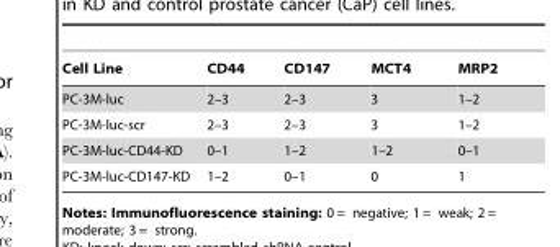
<table><thead><tr><td>Cell Line</td><td>CD44</td><td>CD147</td><td>MCT4</td><td>MRP2</td></tr></thead><tbody><tr><td>PC-3M-luc</td><td>2–3</td><td>2–3</td><td>3</td><td>1–2</td></tr><tr><td>PC-3M-luc-scr</td><td>2–3</td><td>2–3</td><td>3</td><td>1–2</td></tr><tr><td>PC-3M-luc-CD44-KD</td><td>0–1</td><td>1–2</td><td>1–2</td><td>0–1</td></tr><tr><td>PC-3M-luc-CD147-KD</td><td>1–2</td><td>0–1</td><td>0</td><td>1</td></tr></tbody></table>